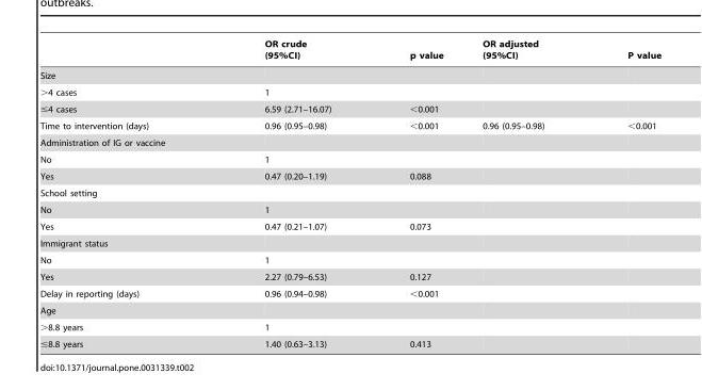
<table><thead><tr><td></td><td>OR crude (95%CI)</td><td>p value</td><td>OR adjusted (95%CI)</td><td>P value</td></tr></thead><tbody><tr><td colspan="5">Size</td></tr><tr><td>&gt;4 cases</td><td>1</td><td></td><td></td><td></td></tr><tr><td>≤4 cases</td><td>6.59 (2.71–16.07)</td><td>&lt;0.001</td><td></td><td></td></tr><tr><td>Time to intervention (days)</td><td>0.96 (0.95–0.98)</td><td>&lt;0.001</td><td>0.96 (0.95–0.98)</td><td>&lt;0.001</td></tr><tr><td colspan="5">Administration of IG or vaccine</td></tr><tr><td>No</td><td>1</td><td></td><td></td><td></td></tr><tr><td>Yes</td><td>0.47 (0.20–1.19)</td><td>0.088</td><td></td><td></td></tr><tr><td colspan="5">School setting</td></tr><tr><td>No</td><td>1</td><td></td><td></td><td></td></tr><tr><td>Yes</td><td>0.47 (0.21–1.07)</td><td>0.073</td><td></td><td></td></tr><tr><td colspan="5">Immigrant status</td></tr><tr><td>No</td><td>1</td><td></td><td></td><td></td></tr><tr><td>Yes</td><td>2.27 (0.79–6.53)</td><td>0.127</td><td></td><td></td></tr><tr><td>Delay in reporting (days)</td><td>0.96 (0.94–0.98)</td><td>&lt;0.001</td><td></td><td></td></tr><tr><td colspan="5">Age</td></tr><tr><td>&gt;8.8 years</td><td>1</td><td></td><td></td><td></td></tr><tr><td>≤8.8 years</td><td>1.40 (0.63–3.13)</td><td>0.413</td><td></td><td></td></tr></tbody></table>